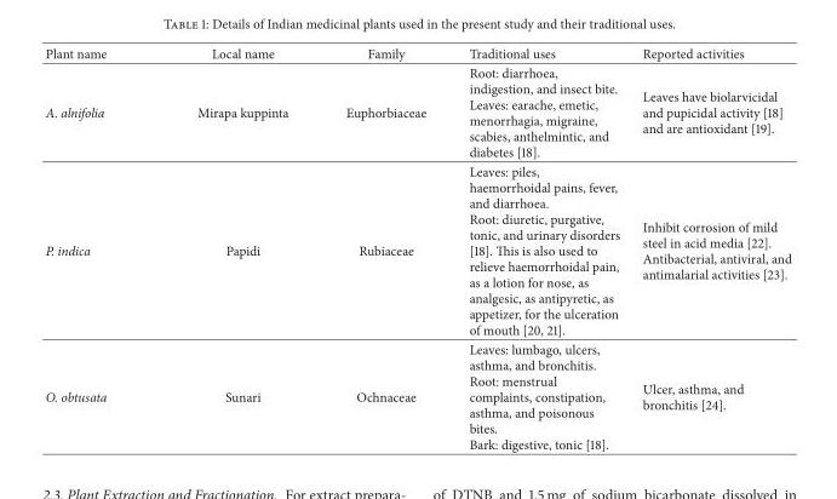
<table><thead><tr><td>Plant name</td><td>Local name</td><td>Family</td><td>Traditional uses</td><td>Reported activities</td></tr></thead><tbody><tr><td>A. alnifolia</td><td>Mirapa kuppinta</td><td>Euphorbiaceae</td><td>Root: diarrhoea, indigestion, and insect bite. Leaves: earache, emetic, menorrhagia, migraine, scabies, anthelmintic, and diabetes [18].</td><td>Leaves have biolarvicidal and pupicidal activity [18] and are antioxidant [19].</td></tr><tr><td>P. indica</td><td>Papidi</td><td>Rubiaceae</td><td>Leaves: piles, haemorrhoidal pains, fever, and diarrhoea. Root: diuretic, purgative, tonic, and urinary disorders [18]. This is also used to relieve haemorrhoidal pain, as a lotion for nose, as analgesic, as antipyretic, as appetizer, for the ulceration of mouth [20, 21].</td><td>Inhibit corrosion of mild steel in acid media [22]. Antibacterial, antiviral, and antimalarial activities [23].</td></tr><tr><td>O. obtusata</td><td>Sunari</td><td>Ochnaceae</td><td>Leaves: lumbago, ulcers, asthma, and bronchitis. Root: menstrual complaints, constipation, asthma, and poisonous bites. Bark: digestive, tonic [18].</td><td>Ulcer, asthma, and bronchitis [24].</td></tr></tbody></table>